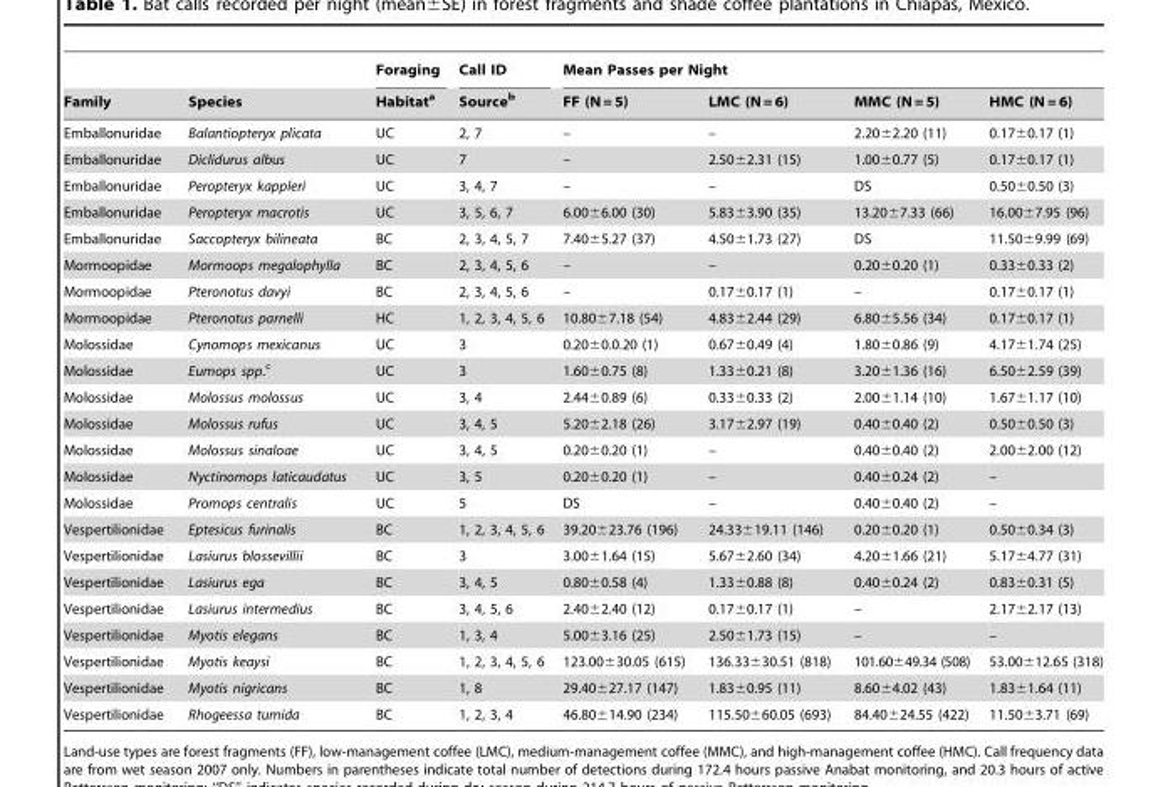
<table><thead><tr><td rowspan="2">Family</td><td rowspan="2">Species</td><td rowspan="2">Foraging Habitat<sup>a</sup></td><td rowspan="2">Call ID Source<sup>b</sup></td><td colspan="4">Mean Passes per Night</td></tr><tr><td>FF (N = 5)</td><td>LMC (N = 6)</td><td>MMC (N = 5)</td><td>HMC (N = 6)</td></tr></thead><tbody><tr><td>Emballonuridae</td><td>Balantiopteryx plicata</td><td>UC</td><td>2, 7</td><td>–</td><td>–</td><td>2.20±2.20 (11)</td><td>0.17±0.17 (1)</td></tr><tr><td>Emballonuridae</td><td>Diclidurus albus</td><td>UC</td><td>7</td><td>–</td><td>2.50±2.31 (15)</td><td>1.00±0.77 (5)</td><td>0.17±0.17 (1)</td></tr><tr><td>Emballonuridae</td><td>Peropteryx kappleri</td><td>UC</td><td>3, 4, 7</td><td>–</td><td>–</td><td>DS</td><td>0.50±0.50 (3)</td></tr><tr><td>Emballonuridae</td><td>Peropteryx macrotis</td><td>UC</td><td>3, 5, 6, 7</td><td>6.00±6.00 (30)</td><td>5.83±3.90 (35)</td><td>13.20±7.33 (66)</td><td>16.00±7.95 (96)</td></tr><tr><td>Emballonuridae</td><td>Saccopteryx bilineata</td><td>BC</td><td>2, 3, 4, 5, 7</td><td>7.40±5.27 (37)</td><td>4.50±1.73 (27)</td><td>DS</td><td>11.50±9.99 (69)</td></tr><tr><td>Mormoopidae</td><td>Mormoops megalophylla</td><td>BC</td><td>2, 3, 4, 5, 6</td><td>–</td><td>–</td><td>0.20±0.20 (1)</td><td>0.33±0.33 (2)</td></tr><tr><td>Mormoopidae</td><td>Pteronotus davyi</td><td>BC</td><td>2, 3, 4, 5, 6</td><td>–</td><td>0.17±0.17 (1)</td><td>–</td><td>0.17±0.17 (1)</td></tr><tr><td>Mormoopidae</td><td>Pteronotus parnelli</td><td>HC</td><td>1, 2, 3, 4, 5, 6</td><td>10.80±7.18 (54)</td><td>4.83±2.44 (29)</td><td>6.80±5.56 (34)</td><td>0.17±0.17 (1)</td></tr><tr><td>Molossidae</td><td>Cynomops mexicanus</td><td>UC</td><td>3</td><td>0.20±0.0.20 (1)</td><td>0.67±0.49 (4)</td><td>1.80±0.86 (9)</td><td>4.17±1.74 (25)</td></tr><tr><td>Molossidae</td><td>Eumops spp.c</td><td>UC</td><td>3</td><td>1.60±0.75 (8)</td><td>1.33±0.21 (8)</td><td>3.20±1.36 (16)</td><td>6.50±2.59 (39)</td></tr><tr><td>Molossidae</td><td>Molossus molossus</td><td>UC</td><td>3, 4</td><td>2.44±0.89 (6)</td><td>0.33±0.33 (2)</td><td>2.00±1.14 (10)</td><td>1.67±1.17 (10)</td></tr><tr><td>Molossidae</td><td>Molossus rufus</td><td>UC</td><td>3, 4, 5</td><td>5.20±2.18 (26)</td><td>3.17±2.97 (19)</td><td>0.40±0.40 (2)</td><td>0.50±0.50 (3)</td></tr><tr><td>Molossidae</td><td>Molossus sinaloae</td><td>UC</td><td>3, 4, 5</td><td>0.20±0.20 (1)</td><td>–</td><td>0.40±0.40 (2)</td><td>2.00±2.00 (12)</td></tr><tr><td>Molossidae</td><td>Nyctinomops laticaudatus</td><td>UC</td><td>3, 5</td><td>0.20±0.20 (1)</td><td>–</td><td>0.40±0.24 (2)</td><td>–</td></tr><tr><td>Molossidae</td><td>Promops centralis</td><td>UC</td><td>5</td><td>DS</td><td>–</td><td>0.40±0.40 (2)</td><td>–</td></tr><tr><td>Vespertilionidae</td><td>Eptesicus furinalis</td><td>BC</td><td>1, 2, 3, 4, 5, 6</td><td>39.20±23.76 (196)</td><td>24.33±19.11 (146)</td><td>0.20±0.20 (1)</td><td>0.50±0.34 (3)</td></tr><tr><td>Vespertilionidae</td><td>Lasiurus blossevillii</td><td>BC</td><td>3</td><td>3.00±1.64 (15)</td><td>5.67±2.60 (34)</td><td>4.20±1.66 (21)</td><td>5.17±4.77 (31)</td></tr><tr><td>Vespertilionidae</td><td>Lasiurus ega</td><td>BC</td><td>3, 4, 5</td><td>0.80±0.58 (4)</td><td>1.33±0.88 (8)</td><td>0.40±0.24 (2)</td><td>0.83±0.31 (5)</td></tr><tr><td>Vespertilionidae</td><td>Lasiurus intermedius</td><td>BC</td><td>3, 4, 5, 6</td><td>2.40±2.40 (12)</td><td>0.17±0.17 (1)</td><td>–</td><td>2.17±2.17 (13)</td></tr><tr><td>Vespertilionidae</td><td>Myotis elegans</td><td>BC</td><td>1, 3, 4</td><td>5.00±3.16 (25)</td><td>2.50±1.73 (15)</td><td>–</td><td>–</td></tr><tr><td>Vespertilionidae</td><td>Myotis keaysi</td><td>BC</td><td>1, 2, 3, 4, 5, 6</td><td>123.00±30.05 (615)</td><td>136.33±30.51 (818)</td><td>101.60±49.34 (508)</td><td>53.00±12.65 (318)</td></tr><tr><td>Vespertilionidae</td><td>Myotis nigricans</td><td>BC</td><td>1, 8</td><td>29.40±27.17 (147)</td><td>1.83±0.95 (11)</td><td>8.60±4.02 (43)</td><td>1.83±1.64 (11)</td></tr><tr><td>Vespertilionidae</td><td>Rhogeessa tumida</td><td>BC</td><td>1, 2, 3, 4</td><td>46.80±14.90 (234)</td><td>115.50±60.05 (693)</td><td>84.40±24.55 (422)</td><td>11.50±3.71 (69)</td></tr></tbody></table>